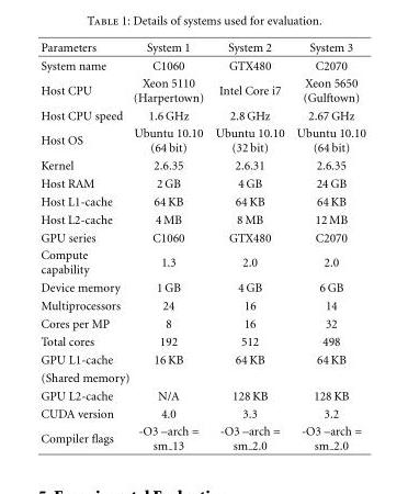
<table><thead><tr><td>Parameters</td><td>System 1</td><td>System 2</td><td>System 3</td></tr></thead><tbody><tr><td>System name</td><td>C1060</td><td>GTX480</td><td>C2070</td></tr><tr><td>Host CPU</td><td>Xeon 5110 (Harpertown)</td><td>Intel Core i7</td><td>Xeon 5650 (Gulftown)</td></tr><tr><td>Host CPU speed</td><td>1.6 GHz</td><td>2.8 GHz</td><td>2.67 GHz</td></tr><tr><td>Host OS</td><td>Ubuntu 10.10 (64 bit)</td><td>Ubuntu 10.10 (32 bit)</td><td>Ubuntu 10.10 (64 bit)</td></tr><tr><td>Kernel</td><td>2.6.35</td><td>2.6.31</td><td>2.6.35</td></tr><tr><td>Host RAM</td><td>2 GB</td><td>4 GB</td><td>24 GB</td></tr><tr><td>Host L1-cache</td><td>64 KB</td><td>64 KB</td><td>64 KB</td></tr><tr><td>Host L2-cache</td><td>4 MB</td><td>8 MB</td><td>12 MB</td></tr><tr><td>GPU series</td><td>C1060</td><td>GTX480</td><td>C2070</td></tr><tr><td>Compute capability</td><td>1.3</td><td>2.0</td><td>2.0</td></tr><tr><td>Device memory</td><td>1 GB</td><td>4 GB</td><td>6 GB</td></tr><tr><td>Multiprocessors</td><td>24</td><td>16</td><td>14</td></tr><tr><td>Cores per MP</td><td>8</td><td>16</td><td>32</td></tr><tr><td>Total cores</td><td>192</td><td>512</td><td>498</td></tr><tr><td>GPU L1-cache</td><td>16 KB</td><td>64 KB</td><td>64 KB</td></tr><tr><td colspan="4">(Shared memory)</td></tr><tr><td>GPU L2-cache</td><td>N/A</td><td>128 KB</td><td>128 KB</td></tr><tr><td>CUDA version</td><td>4.0</td><td>3.3</td><td>3.2</td></tr><tr><td>Compiler flags</td><td>-O3 –arch = sm 13</td><td>-O3 –arch = sm 2.0</td><td>-O3 –arch = sm 2.0</td></tr></tbody></table>